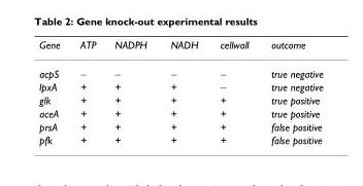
<table><thead><tr><td>Gene</td><td>ATP</td><td>NADPH</td><td>NADH</td><td>cellwall</td><td>outcome</td></tr></thead><tbody><tr><td>acpS</td><td>−</td><td>−</td><td>−</td><td>−</td><td>true negative</td></tr><tr><td>lpxA</td><td>+</td><td>+</td><td>+</td><td>−</td><td>true negative</td></tr><tr><td>glk</td><td>+</td><td>+</td><td>+</td><td>+</td><td>true positive</td></tr><tr><td>aceA</td><td>+</td><td>+</td><td>+</td><td>+</td><td>true positive</td></tr><tr><td>prsA</td><td>+</td><td>+</td><td>+</td><td>+</td><td>false positive</td></tr><tr><td>pfk</td><td>+</td><td>+</td><td>+</td><td>+</td><td>false positive</td></tr></tbody></table>